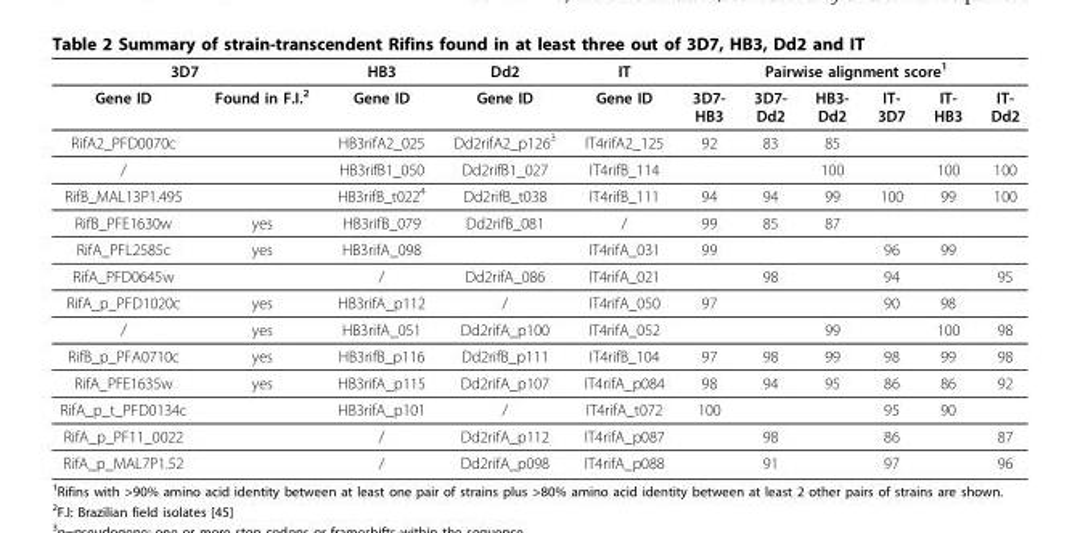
<table><thead><tr><td colspan="2">3D7</td><td rowspan="2">HB3 Gene ID</td><td rowspan="2">Dd2 Gene ID</td><td rowspan="2">IT Gene ID</td><td colspan="6">Pairwise alignment score1</td></tr><tr><td>Gene ID</td><td>Found in F.I.2</td><td>3D7- HB3</td><td>3D7- Dd2</td><td>HB3- Dd2</td><td>IT- 3D7</td><td>IT- HB3</td><td>IT- Dd2</td></tr></thead><tbody><tr><td>RifA2_PFD0070c</td><td></td><td>HB3rifA2_025</td><td>Dd2rifA2_p126<sup>3</sup></td><td>IT4rifA2_125</td><td>92</td><td>83</td><td>85</td><td></td><td></td><td></td></tr><tr><td>/</td><td></td><td>HB3rifB1_050</td><td>Dd2rifB1_027</td><td>IT4rifB_114</td><td></td><td></td><td>100</td><td></td><td>100</td><td>100</td></tr><tr><td>RifB_MAL13P1.495</td><td></td><td>HB3rifB_t022<sup>4</sup></td><td>Dd2rifB_t038</td><td>IT4rifB_111</td><td>94</td><td>94</td><td>99</td><td>100</td><td>99</td><td>100</td></tr><tr><td>RifB_PFE1630w</td><td>yes</td><td>HB3rifB_079</td><td>Dd2rifB_081</td><td>/</td><td>99</td><td>85</td><td>87</td><td></td><td></td><td></td></tr><tr><td>RifA_PFL2585c</td><td>yes</td><td>HB3rifA_098</td><td></td><td>IT4rifA_031</td><td>99</td><td></td><td></td><td>96</td><td>99</td><td></td></tr><tr><td>RifA_PFD0645w</td><td></td><td>/</td><td>Dd2rifA_086</td><td>IT4rifA_021</td><td></td><td>98</td><td></td><td>94</td><td></td><td>95</td></tr><tr><td>RifA_p_PFD1020c</td><td>yes</td><td>HB3rifA_p112</td><td>/</td><td>IT4rifA_050</td><td>97</td><td></td><td></td><td>90</td><td>98</td><td></td></tr><tr><td>/</td><td>yes</td><td>HB3rifA_051</td><td>Dd2rifA_p100</td><td>IT4rifA_052</td><td></td><td></td><td>99</td><td></td><td>100</td><td>98</td></tr><tr><td>RifB_p_PFA0710c</td><td>yes</td><td>HB3rifB_p116</td><td>Dd2rifB_p111</td><td>IT4rifB_104</td><td>97</td><td>98</td><td>99</td><td>98</td><td>99</td><td>98</td></tr><tr><td>RifA_PFE1635w</td><td>yes</td><td>HB3rifA_p115</td><td>Dd2rifA_p107</td><td>IT4rifA_p084</td><td>98</td><td>94</td><td>95</td><td>86</td><td>86</td><td>92</td></tr><tr><td>RifA_p_t_PFD0134c</td><td></td><td>HB3rifA_p101</td><td>/</td><td>IT4rifA_t072</td><td>100</td><td></td><td></td><td>95</td><td>90</td><td></td></tr><tr><td>RifA_p_PF11_0022</td><td></td><td>/</td><td>Dd2rifA_p112</td><td>IT4rifA_p087</td><td></td><td>98</td><td></td><td>86</td><td></td><td>87</td></tr><tr><td>RifA_p_MAL7P1.52</td><td></td><td>/</td><td>Dd2rifA_p098</td><td>IT4rifA_p088</td><td></td><td>91</td><td></td><td>97</td><td></td><td>96</td></tr></tbody></table>